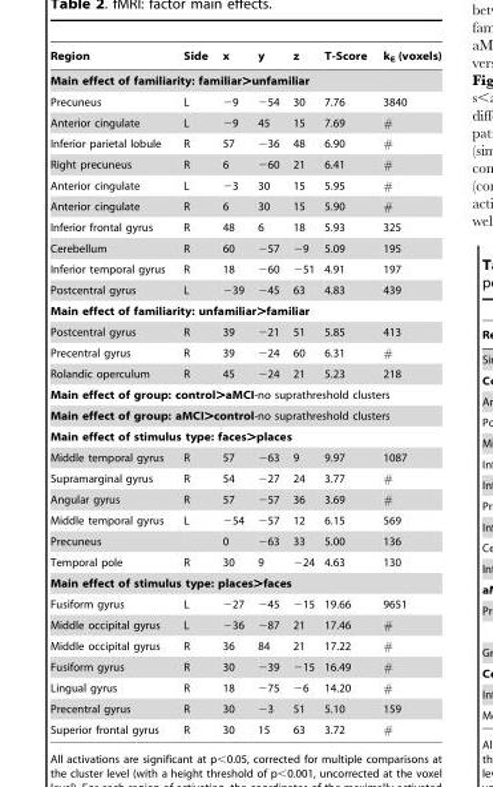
<table><thead><tr><td>Region</td><td>Side</td><td>x</td><td>y</td><td>z</td><td>T-Score</td><td>k<sub>E</sub> (voxels)</td></tr></thead><tbody><tr><td colspan="7">Main effect of familiarity: familiar&gt;unfamiliar</td></tr><tr><td>Precuneus</td><td>L</td><td>−9</td><td>−54</td><td>30</td><td>7.76</td><td>3840</td></tr><tr><td>Anterior cingulate</td><td>L</td><td>−9</td><td>45</td><td>15</td><td>7.69</td><td>#</td></tr><tr><td>Inferior parietal lobule</td><td>R</td><td>57</td><td>−36</td><td>48</td><td>6.90</td><td>#</td></tr><tr><td>Right precuneus</td><td>R</td><td>6</td><td>−60</td><td>21</td><td>6.41</td><td>#</td></tr><tr><td>Anterior cingulate</td><td>L</td><td>−3</td><td>30</td><td>15</td><td>5.95</td><td>#</td></tr><tr><td>Anterior cingulate</td><td>R</td><td>6</td><td>30</td><td>15</td><td>5.90</td><td>#</td></tr><tr><td>Inferior frontal gyrus</td><td>R</td><td>48</td><td>6</td><td>18</td><td>5.93</td><td>325</td></tr><tr><td>Cerebellum</td><td>R</td><td>60</td><td>−57</td><td>−9</td><td>5.09</td><td>195</td></tr><tr><td>Inferior temporal gyrus</td><td>R</td><td>18</td><td>−60</td><td>−51</td><td>4.91</td><td>197</td></tr><tr><td>Postcentral gyrus</td><td>L</td><td>−39</td><td>−45</td><td>63</td><td>4.83</td><td>439</td></tr><tr><td colspan="7">Main effect of familiarity: unfamiliar&gt;familiar</td></tr><tr><td>Postcentral gyrus</td><td>R</td><td>39</td><td>−21</td><td>51</td><td>5.85</td><td>413</td></tr><tr><td>Precentral gyrus</td><td>R</td><td>39</td><td>−24</td><td>60</td><td>6.31</td><td>#</td></tr><tr><td>Rolandic operculum</td><td>R</td><td>45</td><td>−24</td><td>21</td><td>5.23</td><td>218</td></tr><tr><td colspan="7">Main effect of group: control&gt;aMCI-no suprathreshold clusters</td></tr><tr><td colspan="7">Main effect of group: aMCI&gt;control-no suprathreshold clusters</td></tr><tr><td colspan="7">Main effect of stimulus type: faces&gt;places</td></tr><tr><td>Middle temporal gyrus</td><td>R</td><td>57</td><td>−63</td><td>9</td><td>9.97</td><td>1087</td></tr><tr><td>Supramarginal gyrus</td><td>R</td><td>54</td><td>−27</td><td>24</td><td>3.77</td><td>#</td></tr><tr><td>Angular gyrus</td><td>R</td><td>57</td><td>−57</td><td>36</td><td>3.69</td><td>#</td></tr><tr><td>Middle temporal gyrus</td><td>L</td><td>−54</td><td>−57</td><td>12</td><td>6.15</td><td>569</td></tr><tr><td>Precuneus</td><td></td><td>0</td><td>−63</td><td>33</td><td>5.00</td><td>136</td></tr><tr><td>Temporal pole</td><td>R</td><td>30</td><td>9</td><td>−24</td><td>4.63</td><td>130</td></tr><tr><td colspan="7">Main effect of stimulus type: places&gt;faces</td></tr><tr><td>Fusiform gyrus</td><td>L</td><td>−27</td><td>−45</td><td>−15</td><td>19.66</td><td>9651</td></tr><tr><td>Middle occipital gyrus</td><td>L</td><td>−36</td><td>−87</td><td>21</td><td>17.46</td><td>#</td></tr><tr><td>Middle occipital gyrus</td><td>R</td><td>36</td><td>84</td><td>21</td><td>17.22</td><td>#</td></tr><tr><td>Fusiform gyrus</td><td>R</td><td>30</td><td>−39</td><td>−15</td><td>16.49</td><td>#</td></tr><tr><td>Lingual gyrus</td><td>R</td><td>18</td><td>−75</td><td>−6</td><td>14.20</td><td>#</td></tr><tr><td>Precentral gyrus</td><td>R</td><td>30</td><td>−3</td><td>51</td><td>5.10</td><td>159</td></tr><tr><td>Superior frontal gyrus</td><td>R</td><td>30</td><td>15</td><td>63</td><td>3.72</td><td>#</td></tr></tbody></table>